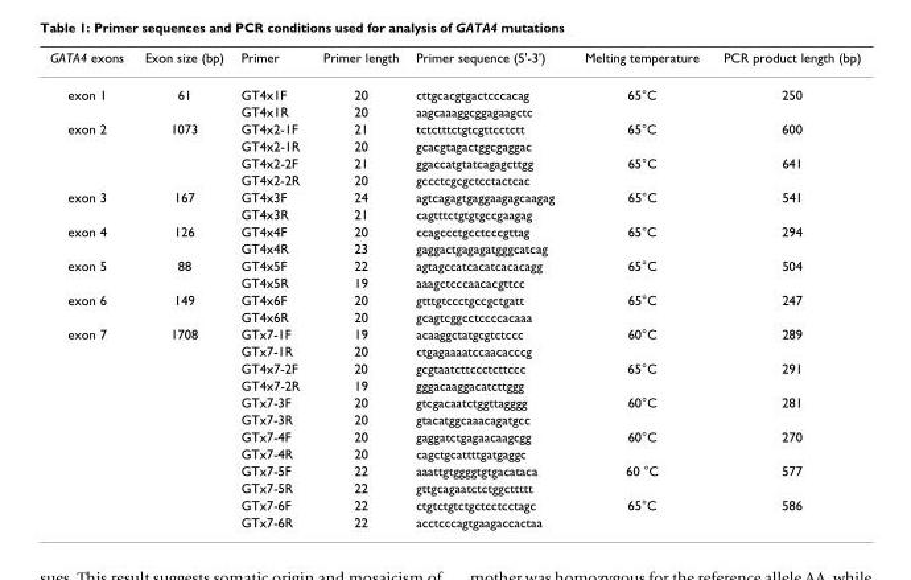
<table><thead><tr><td>GATA4 exons</td><td>Exon size (bp)</td><td>Primer</td><td>Primer length</td><td>Primer sequence (5&#x27;-3&#x27;)</td><td>Melting temperature</td><td>PCR product length (bp)</td></tr></thead><tbody><tr><td rowspan="2">exon 1</td><td>61</td><td>GT4x1F</td><td>20</td><td>cttgcacgtgactcccacag</td><td>65°C</td><td>250</td></tr><tr><td></td><td>GT4x1R</td><td>20</td><td>aagcaaaggcggagaagctc</td><td></td><td></td></tr><tr><td rowspan="4">exon 2</td><td>1073</td><td>GT4x2-1F</td><td>21</td><td>tctctttctgtcgttcctctt</td><td>65°C</td><td>600</td></tr><tr><td></td><td>GT4x2-1R</td><td>20</td><td>gcacgtagactggcgaggac</td><td></td><td></td></tr><tr><td></td><td>GT4x2-2F</td><td>21</td><td>ggaccatgtatcagagcttgg</td><td>65°C</td><td>641</td></tr><tr><td></td><td>GT4x2-2R</td><td>20</td><td>gccctcgcgctcctactcac</td><td></td><td></td></tr><tr><td rowspan="2">exon 3</td><td>167</td><td>GT4x3F</td><td>24</td><td>agtcagagtgaggaagagcaagag</td><td>65°C</td><td>541</td></tr><tr><td></td><td>GT4x3R</td><td>21</td><td>cagtttctgtgtgccgaagag</td><td></td><td></td></tr><tr><td rowspan="2">exon 4</td><td>126</td><td>GT4x4F</td><td>20</td><td>ccagccctgcctcccgttag</td><td>65°C</td><td>294</td></tr><tr><td></td><td>GT4x4R</td><td>23</td><td>gaggactgagagatgggcatcag</td><td></td><td></td></tr><tr><td rowspan="2">exon 5</td><td>88</td><td>GT4x5F</td><td>22</td><td>agtagccatcacatcacacagg</td><td>65°C</td><td>504</td></tr><tr><td></td><td>GT4x5R</td><td>19</td><td>aaagctcccaacacgttcc</td><td></td><td></td></tr><tr><td rowspan="2">exon 6</td><td>149</td><td>GT4x6F</td><td>20</td><td>gtttgtccctgccgctgatt</td><td>65°C</td><td>247</td></tr><tr><td></td><td>GT4x6R</td><td>20</td><td>gcagtcggcctccccacaaa</td><td></td><td></td></tr><tr><td rowspan="12">exon 7</td><td>1708</td><td>GTx7-1F</td><td>19</td><td>acaaggctatgcgtctccc</td><td>60°C</td><td>289</td></tr><tr><td></td><td>GTx7-1R</td><td>20</td><td>ctgagaaaatccaacacccg</td><td></td><td></td></tr><tr><td></td><td>GT4x7-2F</td><td>20</td><td>gcgtaatcttccctcttccc</td><td>65°C</td><td>291</td></tr><tr><td></td><td>GT4x7-2R</td><td>19</td><td>gggacaaggacatcttggg</td><td></td><td></td></tr><tr><td></td><td>GTx7-3F</td><td>20</td><td>gtcgacaatctggttagggg</td><td>60°C</td><td>281</td></tr><tr><td></td><td>GTx7-3R</td><td>20</td><td>gtacatggcaaacagatgcc</td><td></td><td></td></tr><tr><td></td><td>GTx7-4F</td><td>20</td><td>gaggatctgagaacaagcgg</td><td>60°C</td><td>270</td></tr><tr><td></td><td>GTx7-4R</td><td>20</td><td>cagctgcattttgatgaggc</td><td></td><td></td></tr><tr><td></td><td>GTx7-5F</td><td>22</td><td>aaattgtggggtgtgacataca</td><td>60 °C</td><td>577</td></tr><tr><td></td><td>GTx7-5R</td><td>22</td><td>gttgcagaatctctggcttttt</td><td></td><td></td></tr><tr><td></td><td>GTx7-6F</td><td>22</td><td>ctgtctgtctgctcctcctagc</td><td>65°C</td><td>586</td></tr><tr><td></td><td>GTx7-6R</td><td>22</td><td>acctcccagtgaagaccactaa</td><td></td><td></td></tr></tbody></table>